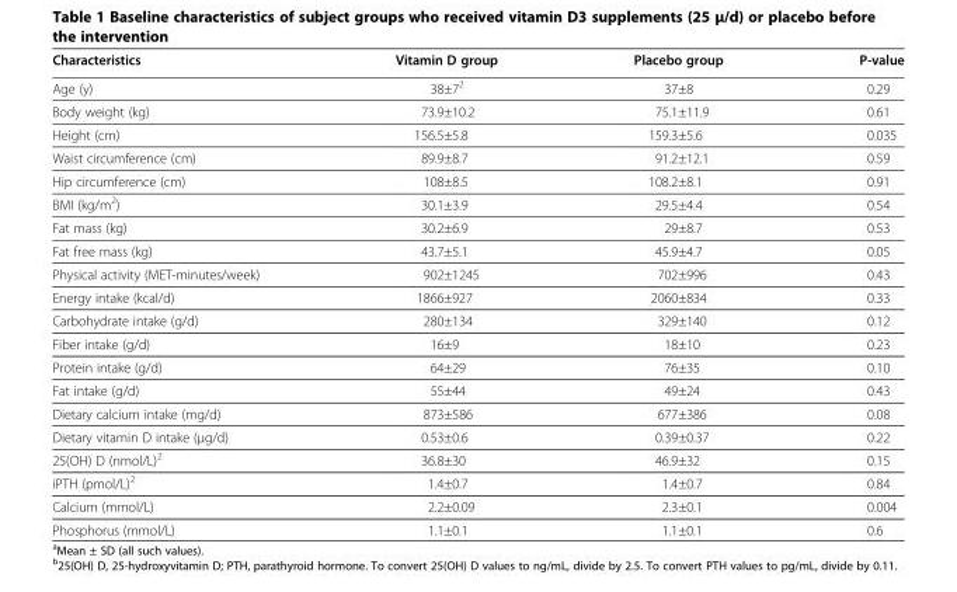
<table><thead><tr><td>Characteristics</td><td>Vitamin D group</td><td>Placebo group</td><td>P-value</td></tr></thead><tbody><tr><td>Age (y)</td><td>38±7<sup>2</sup></td><td>37±8</td><td>0.29</td></tr><tr><td>Body weight (kg)</td><td>73.9±10.2</td><td>75.1±11.9</td><td>0.61</td></tr><tr><td>Height (cm)</td><td>156.5±5.8</td><td>159.3±5.6</td><td>0.035</td></tr><tr><td>Waist circumference (cm)</td><td>89.9±8.7</td><td>91.2±12.1</td><td>0.59</td></tr><tr><td>Hip circumference (cm)</td><td>108±8.5</td><td>108.2±8.1</td><td>0.91</td></tr><tr><td>BMI (kg/m<sup>2</sup>)</td><td>30.1±3.9</td><td>29.5±4.4</td><td>0.54</td></tr><tr><td>Fat mass (kg)</td><td>30.2±6.9</td><td>29±8.7</td><td>0.53</td></tr><tr><td>Fat free mass (kg)</td><td>43.7±5.1</td><td>45.9±4.7</td><td>0.05</td></tr><tr><td>Physical activity (MET-minutes/week)</td><td>902±1245</td><td>702±996</td><td>0.43</td></tr><tr><td>Energy intake (kcal/d)</td><td>1866±927</td><td>2060±834</td><td>0.33</td></tr><tr><td>Carbohydrate intake (g/d)</td><td>280±134</td><td>329±140</td><td>0.12</td></tr><tr><td>Fiber intake (g/d)</td><td>16±9</td><td>18±10</td><td>0.23</td></tr><tr><td>Protein intake (g/d)</td><td>64±29</td><td>76±35</td><td>0.10</td></tr><tr><td>Fat intake (g/d)</td><td>55±44</td><td>49±24</td><td>0.43</td></tr><tr><td>Dietary calcium intake (mg/d)</td><td>873±586</td><td>677±386</td><td>0.08</td></tr><tr><td>Dietary vitamin D intake (μg/d)</td><td>0.53±0.6</td><td>0.39±0.37</td><td>0.22</td></tr><tr><td>25(OH) D (nmol/L)<sup>2</sup></td><td>36.8±30</td><td>46.9±32</td><td>0.15</td></tr><tr><td>iPTH (pmol/L)<sup>2</sup></td><td>1.4±0.7</td><td>1.4±0.7</td><td>0.84</td></tr><tr><td>Calcium (mmol/L)</td><td>2.2±0.09</td><td>2.3±0.1</td><td>0.004</td></tr><tr><td>Phosphorus (mmol/L)</td><td>1.1±0.1</td><td>1.1±0.1</td><td>0.6</td></tr></tbody></table>